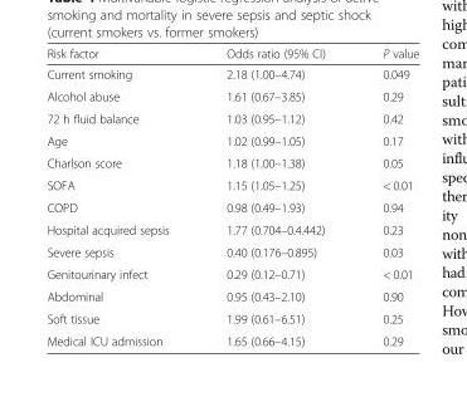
<table><thead><tr><td>Risk factor</td><td>Odds ratio (95% CI)</td><td>P value</td></tr></thead><tbody><tr><td>Current smoking</td><td>2.18 (1.00–4.74)</td><td>0.049</td></tr><tr><td>Alcohol abuse</td><td>1.61 (0.67–3.85)</td><td>0.29</td></tr><tr><td>72 h fluid balance</td><td>1.03 (0.95–1.12)</td><td>0.42</td></tr><tr><td>Age</td><td>1.02 (0.99–1.05)</td><td>0.17</td></tr><tr><td>Charlson score</td><td>1.18 (1.00–1.38)</td><td>0.05</td></tr><tr><td>SOFA</td><td>1.15 (1.05–1.25)</td><td>&lt; 0.01</td></tr><tr><td>COPD</td><td>0.98 (0.49–1.93)</td><td>0.94</td></tr><tr><td>Hospital acquired sepsis</td><td>1.77 (0.704–0.4.442)</td><td>0.23</td></tr><tr><td>Severe sepsis</td><td>0.40 (0.176–0.895)</td><td>0.03</td></tr><tr><td>Genitourinary infect</td><td>0.29 (0.12–0.71)</td><td>&lt; 0.01</td></tr><tr><td>Abdominal</td><td>0.95 (0.43–2.10)</td><td>0.90</td></tr><tr><td>Soft tissue</td><td>1.99 (0.61–6.51)</td><td>0.25</td></tr><tr><td>Medical ICU admission</td><td>1.65 (0.66–4.15)</td><td>0.29</td></tr></tbody></table>